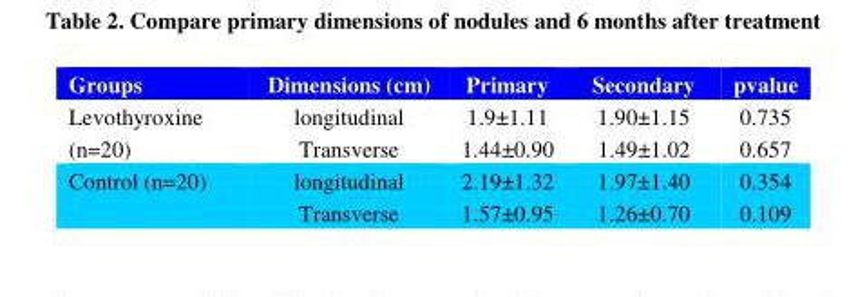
<table><thead><tr><td>pvalue</td><td>Secondary</td><td>Primary</td><td>Dimensions (cm)</td><td>Groups</td></tr></thead><tbody><tr><td>0.735 0.657</td><td>1.90±1.15 1.49±1.02</td><td>1.9±1.11 1.44±0.90</td><td>longitudinal Transverse</td><td>Levothyroxine (n=20)</td></tr><tr><td>0.354 0.109</td><td>1.97±1.40 1.26±0.70</td><td>2.19±1.32 1.57±0.95</td><td>longitudinal Transverse</td><td>Control (n=20)</td></tr></tbody></table>